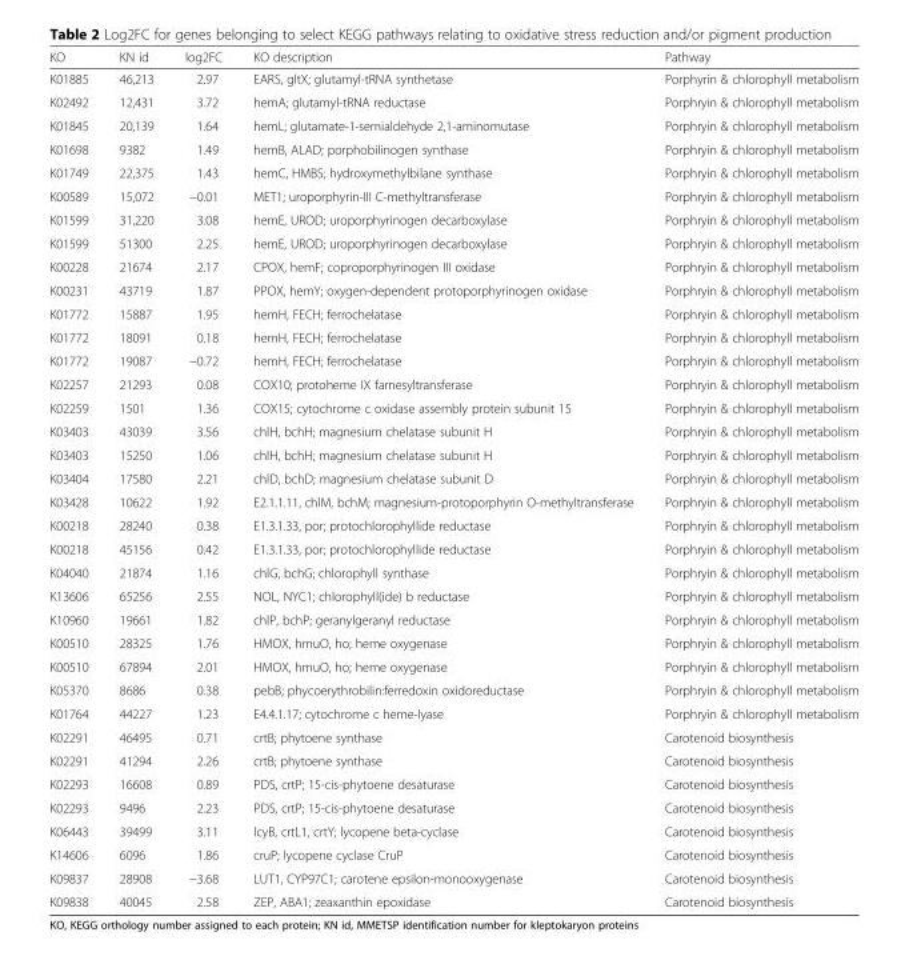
<table><thead><tr><td>KO</td><td>KN id</td><td>log2FC</td><td>KO description</td><td>Pathway</td></tr></thead><tbody><tr><td>K01885</td><td>46,213</td><td>2.97</td><td>EARS, gltX; glutamyl-tRNA synthetase</td><td>Porphyrin &amp; chlorophyll metabolism</td></tr><tr><td>K02492</td><td>12,431</td><td>3.72</td><td>hemA; glutamyl-tRNA reductase</td><td>Porphryin &amp; chlorophyll metabolism</td></tr><tr><td>K01845</td><td>20,139</td><td>1.64</td><td>hemL; glutamate-1-semialdehyde 2,1-aminomutase</td><td>Porphryin &amp; chlorophyll metabolism</td></tr><tr><td>K01698</td><td>9382</td><td>1.49</td><td>hemB, ALAD; porphobilinogen synthase</td><td>Porphryin &amp; chlorophyll metabolism</td></tr><tr><td>K01749</td><td>22,375</td><td>1.43</td><td>hemC, HMBS; hydroxymethylbilane synthase</td><td>Porphryin &amp; chlorophyll metabolism</td></tr><tr><td>K00589</td><td>15,072</td><td>−0.01</td><td>MET1; uroporphyrin-III C-methyltransferase</td><td>Porphryin &amp; chlorophyll metabolism</td></tr><tr><td>K01599</td><td>31,220</td><td>3.08</td><td>hemE, UROD; uroporphyrinogen decarboxylase</td><td>Porphryin &amp; chlorophyll metabolism</td></tr><tr><td>K01599</td><td>51300</td><td>2.25</td><td>hemE, UROD; uroporphyrinogen decarboxylase</td><td>Porphryin &amp; chlorophyll metabolism</td></tr><tr><td>K00228</td><td>21674</td><td>2.17</td><td>CPOX, hemF; coproporphyrinogen III oxidase</td><td>Porphryin &amp; chlorophyll metabolism</td></tr><tr><td>K00231</td><td>43719</td><td>1.87</td><td>PPOX, hemY; oxygen-dependent protoporphyrinogen oxidase</td><td>Porphryin &amp; chlorophyll metabolism</td></tr><tr><td>K01772</td><td>15887</td><td>1.95</td><td>hemH, FECH; ferrochelatase</td><td>Porphryin &amp; chlorophyll metabolism</td></tr><tr><td>K01772</td><td>18091</td><td>0.18</td><td>hemH, FECH; ferrochelatase</td><td>Porphryin &amp; chlorophyll metabolism</td></tr><tr><td>K01772</td><td>19087</td><td>−0.72</td><td>hemH, FECH; ferrochelatase</td><td>Porphryin &amp; chlorophyll metabolism</td></tr><tr><td>K02257</td><td>21293</td><td>0.08</td><td>COX10; protoheme IX farnesyltransferase</td><td>Porphryin &amp; chlorophyll metabolism</td></tr><tr><td>K02259</td><td>1501</td><td>1.36</td><td>COX15; cytochrome c oxidase assembly protein subunit 15</td><td>Porphryin &amp; chlorophyll metabolism</td></tr><tr><td>K03403</td><td>43039</td><td>3.56</td><td>chlH, bchH; magnesium chelatase subunit H</td><td>Porphryin &amp; chlorophyll metabolism</td></tr><tr><td>K03403</td><td>15250</td><td>1.06</td><td>chlH, bchH; magnesium chelatase subunit H</td><td>Porphryin &amp; chlorophyll metabolism</td></tr><tr><td>K03404</td><td>17580</td><td>2.21</td><td>chlD, bchD; magnesium chelatase subunit D</td><td>Porphryin &amp; chlorophyll metabolism</td></tr><tr><td>K03428</td><td>10622</td><td>1.92</td><td>E2.1.1.11, chlM, bchM; magnesium-protoporphyrin O-methyltransferase</td><td>Porphryin &amp; chlorophyll metabolism</td></tr><tr><td>K00218</td><td>28240</td><td>0.38</td><td>E1.3.1.33, por; protochlorophyllide reductase</td><td>Porphryin &amp; chlorophyll metabolism</td></tr><tr><td>K00218</td><td>45156</td><td>0.42</td><td>E1.3.1.33, por; protochlorophyllide reductase</td><td>Porphryin &amp; chlorophyll metabolism</td></tr><tr><td>K04040</td><td>21874</td><td>1.16</td><td>chlG, bchG; chlorophyll synthase</td><td>Porphryin &amp; chlorophyll metabolism</td></tr><tr><td>K13606</td><td>65256</td><td>2.55</td><td>NOL, NYC1; chlorophyll(ide) b reductase</td><td>Porphryin &amp; chlorophyll metabolism</td></tr><tr><td>K10960</td><td>19661</td><td>1.82</td><td>chlP, bchP; geranylgeranyl reductase</td><td>Porphryin &amp; chlorophyll metabolism</td></tr><tr><td>K00510</td><td>28325</td><td>1.76</td><td>HMOX, hmuO, ho; heme oxygenase</td><td>Porphryin &amp; chlorophyll metabolism</td></tr><tr><td>K00510</td><td>67894</td><td>2.01</td><td>HMOX, hmuO, ho; heme oxygenase</td><td>Porphryin &amp; chlorophyll metabolism</td></tr><tr><td>K05370</td><td>8686</td><td>0.38</td><td>pebB; phycoerythrobilin:ferredoxin oxidoreductase</td><td>Porphryin &amp; chlorophyll metabolism</td></tr><tr><td>K01764</td><td>44227</td><td>1.23</td><td>E4.4.1.17; cytochrome c heme-lyase</td><td>Porphryin &amp; chlorophyll metabolism</td></tr><tr><td>K02291</td><td>46495</td><td>0.71</td><td>crtB; phytoene synthase</td><td>Carotenoid biosynthesis</td></tr><tr><td>K02291</td><td>41294</td><td>2.26</td><td>crtB; phytoene synthase</td><td>Carotenoid biosynthesis</td></tr><tr><td>K02293</td><td>16608</td><td>0.89</td><td>PDS, crtP; 15-cis-phytoene desaturase</td><td>Carotenoid biosynthesis</td></tr><tr><td>K02293</td><td>9496</td><td>2.23</td><td>PDS, crtP; 15-cis-phytoene desaturase</td><td>Carotenoid biosynthesis</td></tr><tr><td>K06443</td><td>39499</td><td>3.11</td><td>lcyB, crtL1, crtY; lycopene beta-cyclase</td><td>Carotenoid biosynthesis</td></tr><tr><td>K14606</td><td>6096</td><td>1.86</td><td>cruP; lycopene cyclase CruP</td><td>Carotenoid biosynthesis</td></tr><tr><td>K09837</td><td>28908</td><td>−3.68</td><td>LUT1, CYP97C1; carotene epsilon-monooxygenase</td><td>Carotenoid biosynthesis</td></tr><tr><td>K09838</td><td>40045</td><td>2.58</td><td>ZEP, ABA1; zeaxanthin epoxidase</td><td>Carotenoid biosynthesis</td></tr></tbody></table>